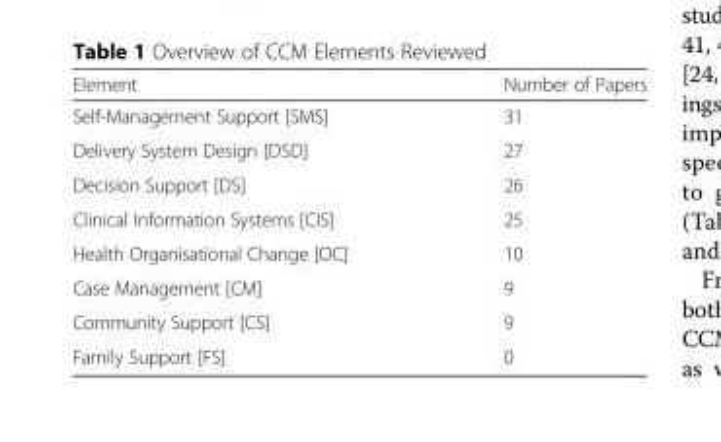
<table><thead><tr><td>Element</td><td>Number of Papers</td></tr></thead><tbody><tr><td>Self-Management Support [SMS]</td><td>31</td></tr><tr><td>Delivery System Design [DSD]</td><td>27</td></tr><tr><td>Decision Support [DS]</td><td>26</td></tr><tr><td>Clinical Information Systems [CIS]</td><td>25</td></tr><tr><td>Health Organisational Change [OC]</td><td>10</td></tr><tr><td>Case Management [CM]</td><td>9</td></tr><tr><td>Community Support [CS]</td><td>9</td></tr><tr><td>Family Support [FS]</td><td>0</td></tr></tbody></table>